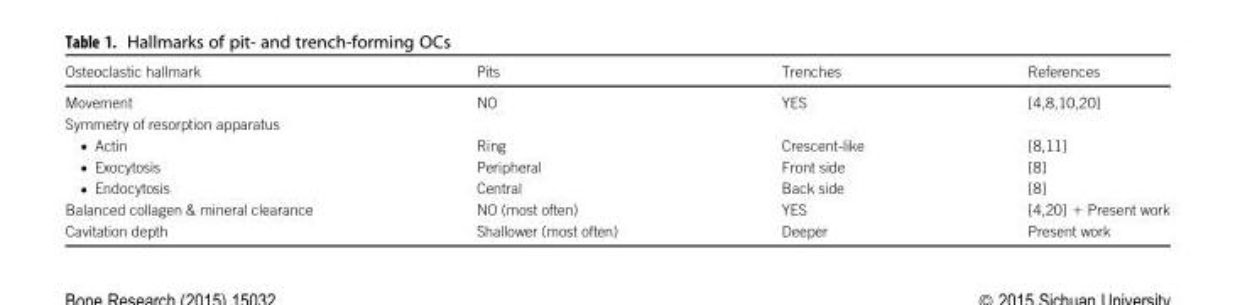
<table><thead><tr><td>Osteoclastic hallmark</td><td>Pits</td><td>Trenches</td><td>References</td></tr></thead><tbody><tr><td>Movement</td><td>NO</td><td>YES</td><td>[4,8,10,20]</td></tr><tr><td colspan="4">Symmetry of resorption apparatus</td></tr><tr><td>. Actin</td><td>Ring</td><td>Crescent-like</td><td>[8,11]</td></tr><tr><td>. Exocytosis</td><td>Peripheral</td><td>Front side</td><td>[8]</td></tr><tr><td>. Endocytosis</td><td>Central</td><td>Back side</td><td>[8]</td></tr><tr><td>Balanced collagen &amp; mineral clearance</td><td>NO (most often)</td><td>YES</td><td>[4,20] + Present work</td></tr><tr><td>Cavitation depth</td><td>Shallower (most often)</td><td>Deeper</td><td>Present work</td></tr></tbody></table>